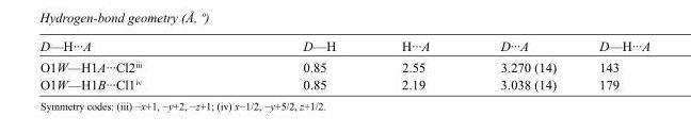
<table><tbody><tr><td>D—H···A</td><td>D—H</td><td>H···A</td><td>D···A</td><td>D—H···A</td></tr><tr><td>O1W—H1A···Cl2<sup>iii</sup></td><td>0.85</td><td>2.55</td><td>3.270 (14)</td><td>143</td></tr><tr><td>O1W—H1B···Cl1<sup>iv</sup></td><td>0.85</td><td>2.19</td><td>3.038 (14)</td><td>179</td></tr></tbody></table>